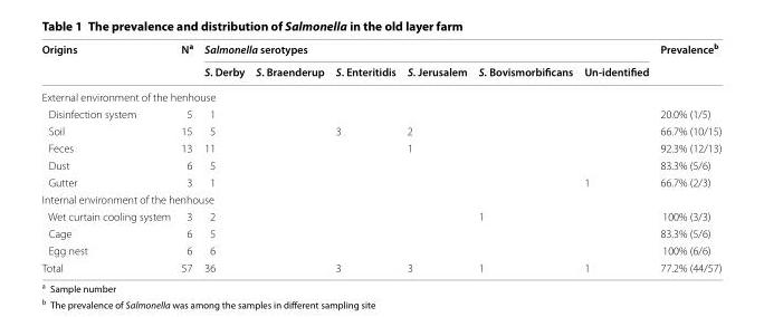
<table><thead><tr><td rowspan="2">Origins</td><td rowspan="2">N<sup>a</sup></td><td colspan="6">Salmonella serotypes</td><td rowspan="2">Prevalence<sup>b</sup></td></tr><tr><td>S. Derby</td><td>S. Braenderup</td><td>S. Enteritidis</td><td>S. Jerusalem</td><td>S. Bovismorbificans</td><td>Un-identified</td></tr></thead><tbody><tr><td colspan="9">External environment of the henhouse</td></tr><tr><td>Disinfection system</td><td>5</td><td>1</td><td></td><td></td><td></td><td></td><td></td><td>20.0% (1/5)</td></tr><tr><td>Soil</td><td>15</td><td>5</td><td></td><td>3</td><td>2</td><td></td><td></td><td>66.7% (10/15)</td></tr><tr><td>Feces</td><td>13</td><td>11</td><td></td><td></td><td>1</td><td></td><td></td><td>92.3% (12/13)</td></tr><tr><td>Dust</td><td>6</td><td>5</td><td></td><td></td><td></td><td></td><td></td><td>83.3% (5/6)</td></tr><tr><td>Gutter</td><td>3</td><td>1</td><td></td><td></td><td></td><td></td><td>1</td><td>66.7% (2/3)</td></tr><tr><td colspan="9">Internal environment of the henhouse</td></tr><tr><td>Wet curtain cooling system</td><td>3</td><td>2</td><td></td><td></td><td></td><td>1</td><td></td><td>100% (3/3)</td></tr><tr><td>Cage</td><td>6</td><td>5</td><td></td><td></td><td></td><td></td><td></td><td>83.3% (5/6)</td></tr><tr><td>Egg nest</td><td>6</td><td>6</td><td></td><td></td><td></td><td></td><td></td><td>100% (6/6)</td></tr><tr><td>Total</td><td>57</td><td>36</td><td></td><td>3</td><td>3</td><td>1</td><td>1</td><td>77.2% (44/57)</td></tr></tbody></table>